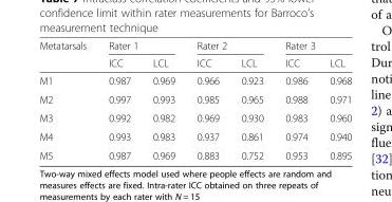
<table><thead><tr><td rowspan="2">Metatarsals</td><td colspan="2">Rater 1</td><td colspan="2">Rater 2</td><td colspan="2">Rater 3</td></tr><tr><td>ICC</td><td>LCL</td><td>ICC</td><td>LCL</td><td>ICC</td><td>LCL</td></tr></thead><tbody><tr><td>M1</td><td>0.987</td><td>0.969</td><td>0.966</td><td>0.923</td><td>0.986</td><td>0.968</td></tr><tr><td>M2</td><td>0.997</td><td>0.993</td><td>0.985</td><td>0.965</td><td>0.988</td><td>0.971</td></tr><tr><td>M3</td><td>0.992</td><td>0.982</td><td>0.969</td><td>0.930</td><td>0.983</td><td>0.960</td></tr><tr><td>M4</td><td>0.993</td><td>0.983</td><td>0.937</td><td>0.861</td><td>0.974</td><td>0.940</td></tr><tr><td>M5</td><td>0.987</td><td>0.969</td><td>0.883</td><td>0.752</td><td>0.953</td><td>0.895</td></tr></tbody></table>